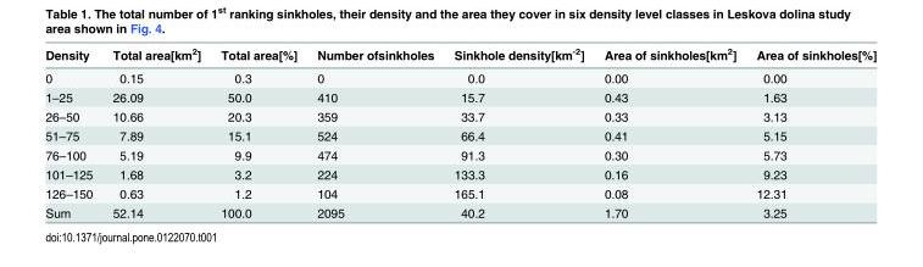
<table><thead><tr><td>Density</td><td>Total area[km<sup>2</sup>]</td><td>Total area[%]</td><td>Number ofsinkholes</td><td>Sinkhole density[km<sup>-2</sup>]</td><td>Area of sinkholes[km<sup>2</sup>]</td><td>Area of sinkholes[%]</td></tr></thead><tbody><tr><td>0</td><td>0.15</td><td>0.3</td><td>0</td><td>0.0</td><td>0.00</td><td>0.00</td></tr><tr><td>1–25</td><td>26.09</td><td>50.0</td><td>410</td><td>15.7</td><td>0.43</td><td>1.63</td></tr><tr><td>26–50</td><td>10.66</td><td>20.3</td><td>359</td><td>33.7</td><td>0.33</td><td>3.13</td></tr><tr><td>51–75</td><td>7.89</td><td>15.1</td><td>524</td><td>66.4</td><td>0.41</td><td>5.15</td></tr><tr><td>76–100</td><td>5.19</td><td>9.9</td><td>474</td><td>91.3</td><td>0.30</td><td>5.73</td></tr><tr><td>101–125</td><td>1.68</td><td>3.2</td><td>224</td><td>133.3</td><td>0.16</td><td>9.23</td></tr><tr><td>126–150</td><td>0.63</td><td>1.2</td><td>104</td><td>165.1</td><td>0.08</td><td>12.31</td></tr><tr><td>Sum</td><td>52.14</td><td>100.0</td><td>2095</td><td>40.2</td><td>1.70</td><td>3.25</td></tr></tbody></table>